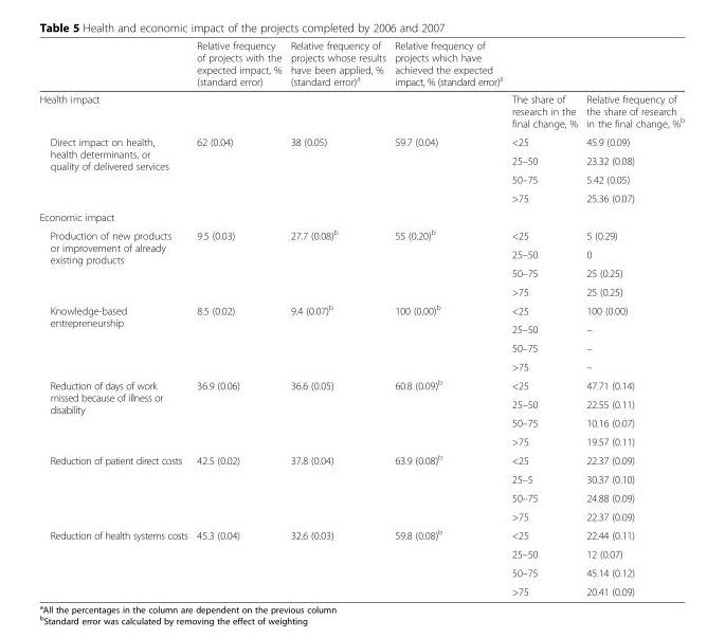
<table><thead><tr><td></td><td>Relative frequency of projects with the expected impact, % (standard error)</td><td>Relative frequency of projects whose results have been applied, % (standard error)<sup>a</sup></td><td>Relative frequency of projects which have achieved the expected impact, % (standard error)<sup>a</sup></td><td></td><td></td></tr></thead><tbody><tr><td>Health impact</td><td></td><td></td><td></td><td>The share of research in the final change, %</td><td>Relative frequency of the share of research in the final change, %<sup>b</sup></td></tr><tr><td rowspan="4">Direct impact on health, health determinants, or quality of delivered services</td><td rowspan="4">62 (0.04)</td><td rowspan="4">38 (0.05)</td><td rowspan="4">59.7 (0.04)</td><td>&lt;25</td><td>45.9 (0.09)</td></tr><tr><td>25–50</td><td>23.32 (0.08)</td></tr><tr><td>50–75</td><td>5.42 (0.05)</td></tr><tr><td>&gt;75</td><td>25.36 (0.07)</td></tr><tr><td colspan="6">Economic impact</td></tr><tr><td rowspan="4">Production of new products or improvement of already existing products</td><td rowspan="4">9.5 (0.03)</td><td rowspan="4">27.7 (0.08)<sup>b</sup></td><td rowspan="4">55 (0.20)<sup>b</sup></td><td>&lt;25</td><td>5 (0.29)</td></tr><tr><td>25–50</td><td>0</td></tr><tr><td>50–75</td><td>25 (0.25)</td></tr><tr><td>&gt;75</td><td>25 (0.25)</td></tr><tr><td rowspan="4">Knowledge-based entrepreneurship</td><td rowspan="4">8.5 (0.02)</td><td rowspan="4">9.4 (0.07)<sup>b</sup></td><td rowspan="4">100 (0.00)<sup>b</sup></td><td>&lt;25</td><td>100 (0.00)</td></tr><tr><td>25–50</td><td>–</td></tr><tr><td>50–75</td><td>–</td></tr><tr><td>&gt;75</td><td>–</td></tr><tr><td rowspan="4">Reduction of days of work missed because of illness or disability</td><td rowspan="4">36.9 (0.06)</td><td rowspan="4">36.6 (0.05)</td><td rowspan="4">60.8 (0.09)<sup>b</sup></td><td>&lt;25</td><td>47.71 (0.14)</td></tr><tr><td>25–50</td><td>22.55 (0.11)</td></tr><tr><td>50–75</td><td>10.16 (0.07)</td></tr><tr><td>&gt;75</td><td>19.57 (0.11)</td></tr><tr><td rowspan="4">Reduction of patient direct costs</td><td rowspan="4">42.5 (0.02)</td><td rowspan="4">37.8 (0.04)</td><td rowspan="4">63.9 (0.08)<sup>b</sup></td><td>&lt;25</td><td>22.37 (0.09)</td></tr><tr><td>25–5</td><td>30.37 (0.10)</td></tr><tr><td>50–75</td><td>24.88 (0.09)</td></tr><tr><td>&gt;75</td><td>22.37 (0.09)</td></tr><tr><td rowspan="4">Reduction of health systems costs</td><td rowspan="4">45.3 (0.04)</td><td rowspan="4">32.6 (0.03)</td><td rowspan="4">59.8 (0.08)<sup>b</sup></td><td>&lt;25</td><td>22.44 (0.11)</td></tr><tr><td>25–50</td><td>12 (0.07)</td></tr><tr><td>50–75</td><td>45.14 (0.12)</td></tr><tr><td>&gt;75</td><td>20.41 (0.09)</td></tr></tbody></table>